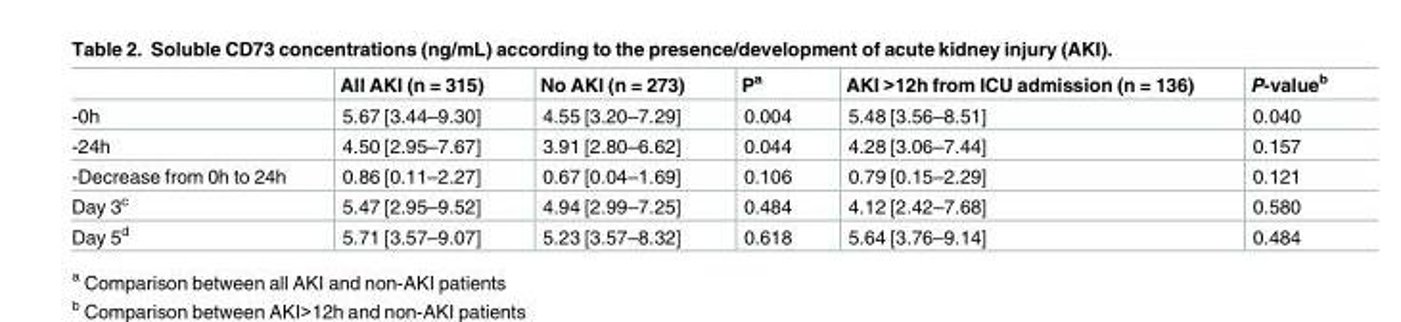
<table><thead><tr><td></td><td>All AKI (n = 315)</td><td>No AKI (n = 273)</td><td>P<sup>a</sup></td><td>AKI &gt;12h from ICU admission (n = 136)</td><td>P-value<sup>b</sup></td></tr></thead><tbody><tr><td>-0h</td><td>5.67 [3.44–9.30]</td><td>4.55 [3.20–7.29]</td><td>0.004</td><td>5.48 [3.56–8.51]</td><td>0.040</td></tr><tr><td>-24h</td><td>4.50 [2.95–7.67]</td><td>3.91 [2.80–6.62]</td><td>0.044</td><td>4.28 [3.06–7.44]</td><td>0.157</td></tr><tr><td>-Decrease from 0h to 24h</td><td>0.86 [0.11–2.27]</td><td>0.67 [0.04–1.69]</td><td>0.106</td><td>0.79 [0.15–2.29]</td><td>0.121</td></tr><tr><td>Day 3<sup>c</sup></td><td>5.47 [2.95–9.52]</td><td>4.94 [2.99–7.25]</td><td>0.484</td><td>4.12 [2.42–7.68]</td><td>0.580</td></tr><tr><td>Day 5<sup>d</sup></td><td>5.71 [3.57–9.07]</td><td>5.23 [3.57–8.32]</td><td>0.618</td><td>5.64 [3.76–9.14]</td><td>0.484</td></tr></tbody></table>